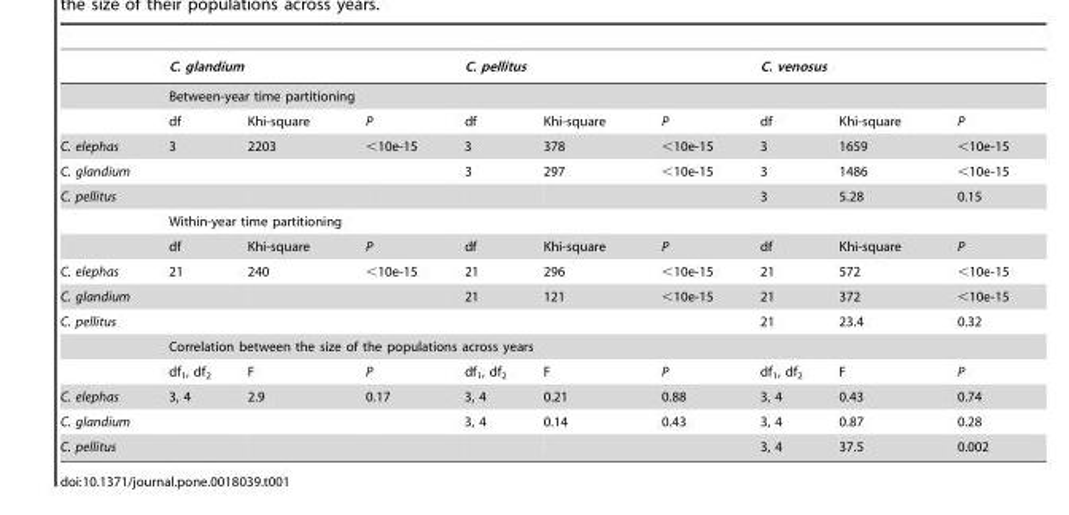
<table><thead><tr><td rowspan="3"></td><td colspan="3">C. glandium</td><td colspan="3">C. pellitus</td><td colspan="3">C. venosus</td></tr><tr><td colspan="9">Between-year time partitioning</td></tr><tr><td>df</td><td>Khi-square</td><td>P</td><td>df</td><td>Khi-square</td><td>P</td><td>df</td><td>Khi-square</td><td>P</td></tr></thead><tbody><tr><td>C. elephas</td><td>3</td><td>2203</td><td>&lt;10e-15</td><td>3</td><td>378</td><td>&lt;10e-15</td><td>3</td><td>1659</td><td>&lt;10e-15</td></tr><tr><td>C. glandium</td><td></td><td></td><td></td><td>3</td><td>297</td><td>&lt;10e-15</td><td>3</td><td>1486</td><td>&lt;10e-15</td></tr><tr><td rowspan="3">C. pellitus</td><td></td><td></td><td></td><td></td><td></td><td></td><td>3</td><td>5.28</td><td>0.15</td></tr><tr><td colspan="9">Within-year time partitioning</td></tr><tr><td>df</td><td>Khi-square</td><td>P</td><td>df</td><td>Khi-square</td><td>P</td><td>df</td><td>Khi-square</td><td>P</td></tr><tr><td>C. elephas</td><td>21</td><td>240</td><td>&lt;10e-15</td><td>21</td><td>296</td><td>&lt;10e-15</td><td>21</td><td>572</td><td>&lt;10e-15</td></tr><tr><td>C. glandium</td><td></td><td></td><td></td><td>21</td><td>121</td><td>&lt;10e-15</td><td>21</td><td>372</td><td>&lt;10e-15</td></tr><tr><td rowspan="3">C. pellitus</td><td></td><td></td><td></td><td></td><td></td><td></td><td>21</td><td>23.4</td><td>0.32</td></tr><tr><td colspan="9">Correlation between the size of the populations across years</td></tr><tr><td>df<sub>1</sub>, df<sub>2</sub></td><td>F</td><td>P</td><td>df<sub>1</sub>, df<sub>2</sub></td><td>F</td><td>P</td><td>df<sub>1</sub>, df<sub>2</sub></td><td>F</td><td>P</td></tr><tr><td>C. elephas</td><td>3, 4</td><td>2.9</td><td>0.17</td><td>3, 4</td><td>0.21</td><td>0.88</td><td>3, 4</td><td>0.43</td><td>0.74</td></tr><tr><td>C. glandium</td><td></td><td></td><td></td><td>3, 4</td><td>0.14</td><td>0.43</td><td>3, 4</td><td>0.87</td><td>0.28</td></tr><tr><td>C. pellitus</td><td></td><td></td><td></td><td></td><td></td><td></td><td>3, 4</td><td>37.5</td><td>0.002</td></tr></tbody></table>